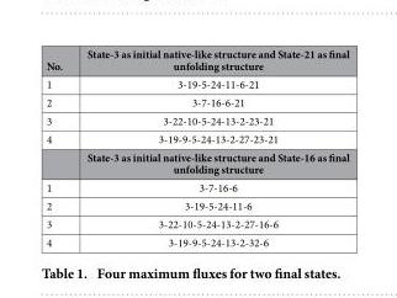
<table><thead><tr><td>No.</td><td>State-3 as initial native-like structure and State-21 as final unfolding structure</td></tr></thead><tbody><tr><td>1</td><td>3-19-5-24-11-6-21</td></tr><tr><td>2</td><td>3-7-16-6-21</td></tr><tr><td>3</td><td>3-22-10-5-24-13-2-23-21</td></tr><tr><td rowspan="2">4</td><td>3-19-9-5-24-13-2-27-23-21</td></tr><tr><td>State-3 as initial native-like structure and State-16 as final unfolding structure</td></tr><tr><td>1</td><td>3-7-16-6</td></tr><tr><td>2</td><td>3-19-5-24-11-6</td></tr><tr><td>3</td><td>3-22-10-5-24-13-2-27-16-6</td></tr><tr><td>4</td><td>3-19-9-5-24-13-2-32-6</td></tr></tbody></table>